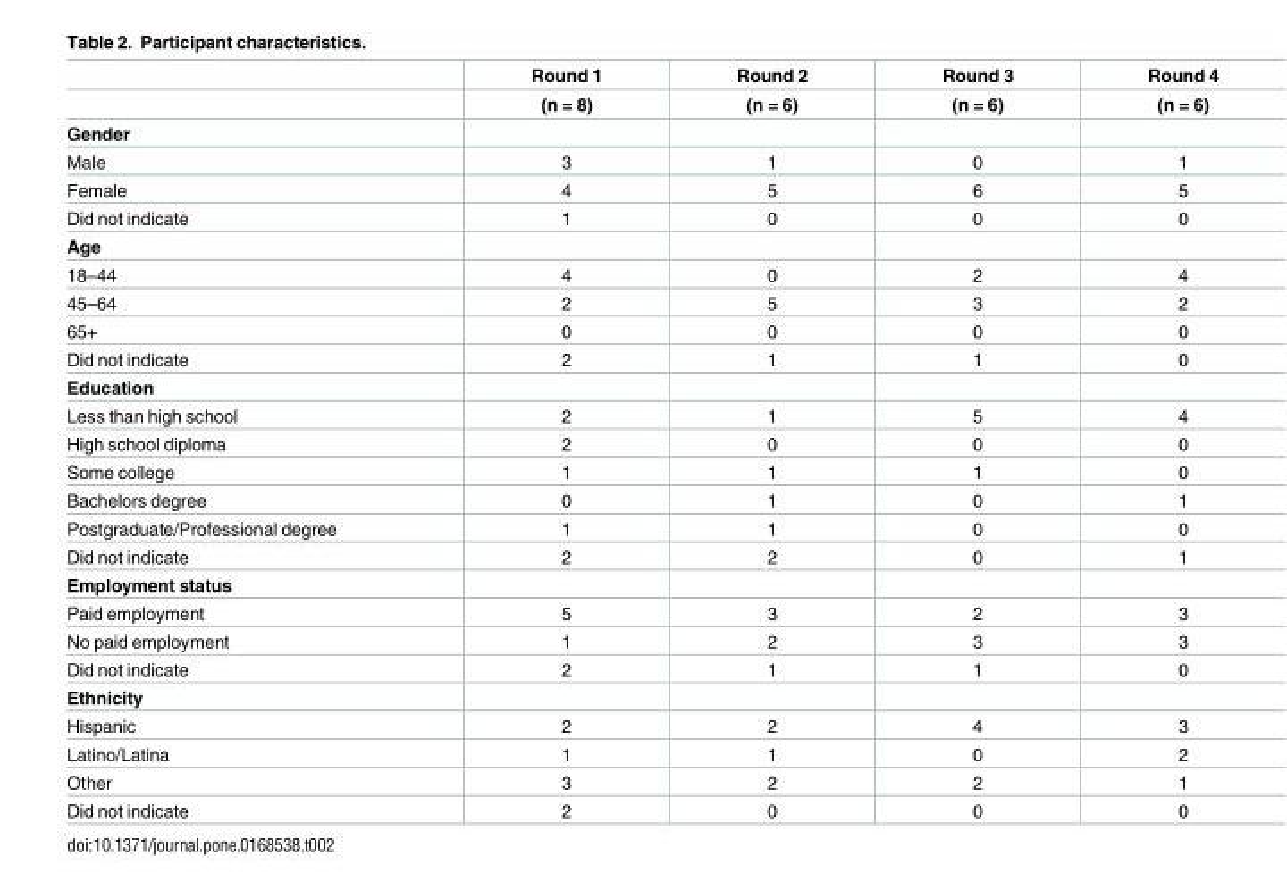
<table><thead><tr><td rowspan="2"></td><td rowspan="2">Round 1 (n = 8)</td><td rowspan="2">Round 2 (n = 6)</td><td rowspan="2">Round 3 (n = 6)</td><td rowspan="2">Round 4 (n = 6)</td></tr><tr></tr></thead><tbody><tr><td colspan="5">Gender</td></tr><tr><td>Male</td><td>3</td><td>1</td><td>0</td><td>1</td></tr><tr><td>Female</td><td>4</td><td>5</td><td>6</td><td>5</td></tr><tr><td>Did not indicate</td><td>1</td><td>0</td><td>0</td><td>0</td></tr><tr><td colspan="5">Age</td></tr><tr><td>18–44</td><td>4</td><td>0</td><td>2</td><td>4</td></tr><tr><td>45–64</td><td>2</td><td>5</td><td>3</td><td>2</td></tr><tr><td>65+</td><td>0</td><td>0</td><td>0</td><td>0</td></tr><tr><td>Did not indicate</td><td>2</td><td>1</td><td>1</td><td>0</td></tr><tr><td colspan="5">Education</td></tr><tr><td>Less than high school</td><td>2</td><td>1</td><td>5</td><td>4</td></tr><tr><td>High school diploma</td><td>2</td><td>0</td><td>0</td><td>0</td></tr><tr><td>Some college</td><td>1</td><td>1</td><td>1</td><td>0</td></tr><tr><td>Bachelors degree</td><td>0</td><td>1</td><td>0</td><td>1</td></tr><tr><td>Postgraduate/Professional degree</td><td>1</td><td>1</td><td>0</td><td>0</td></tr><tr><td>Did not indicate</td><td>2</td><td>2</td><td>0</td><td>1</td></tr><tr><td colspan="5">Employment status</td></tr><tr><td>Paid employment</td><td>5</td><td>3</td><td>2</td><td>3</td></tr><tr><td>No paid employment</td><td>1</td><td>2</td><td>3</td><td>3</td></tr><tr><td>Did not indicate</td><td>2</td><td>1</td><td>1</td><td>0</td></tr><tr><td colspan="5">Ethnicity</td></tr><tr><td>Hispanic</td><td>2</td><td>2</td><td>4</td><td>3</td></tr><tr><td>Latino/Latina</td><td>1</td><td>1</td><td>0</td><td>2</td></tr><tr><td>Other</td><td>3</td><td>2</td><td>2</td><td>1</td></tr><tr><td>Did not indicate</td><td>2</td><td>0</td><td>0</td><td>0</td></tr></tbody></table>